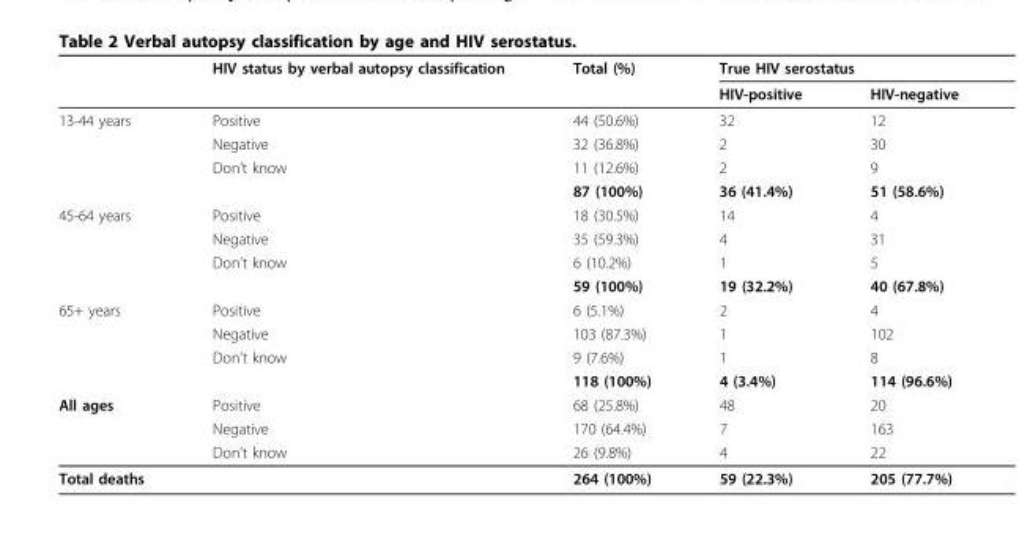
<table><thead><tr><td rowspan="2"></td><td rowspan="2">HIV status by verbal autopsy classification</td><td rowspan="2">Total (%)</td><td colspan="2">True HIV serostatus</td></tr><tr><td>HIV-positive</td><td>HIV-negative</td></tr></thead><tbody><tr><td rowspan="4">13-44 years</td><td>Positive</td><td>44 (50.6%)</td><td>32</td><td>12</td></tr><tr><td>Negative</td><td>32 (36.8%)</td><td>2</td><td>30</td></tr><tr><td>Don’t know</td><td>11 (12.6%)</td><td>2</td><td>9</td></tr><tr><td></td><td>87 (100%)</td><td>36 (41.4%)</td><td>51 (58.6%)</td></tr><tr><td rowspan="4">45-64 years</td><td>Positive</td><td>18 (30.5%)</td><td>14</td><td>4</td></tr><tr><td>Negative</td><td>35 (59.3%)</td><td>4</td><td>31</td></tr><tr><td>Don’t know</td><td>6 (10.2%)</td><td>1</td><td>5</td></tr><tr><td></td><td>59 (100%)</td><td>19 (32.2%)</td><td>40 (67.8%)</td></tr><tr><td rowspan="4">65+ years</td><td>Positive</td><td>6 (5.1%)</td><td>2</td><td>4</td></tr><tr><td>Negative</td><td>103 (87.3%)</td><td>1</td><td>102</td></tr><tr><td>Don’t know</td><td>9 (7.6%)</td><td>1</td><td>8</td></tr><tr><td></td><td>118 (100%)</td><td>4 (3.4%)</td><td>114 (96.6%)</td></tr><tr><td rowspan="3">All ages</td><td>Positive</td><td>68 (25.8%)</td><td>48</td><td>20</td></tr><tr><td>Negative</td><td>170 (64.4%)</td><td>7</td><td>163</td></tr><tr><td>Don’t know</td><td>26 (9.8%)</td><td>4</td><td>22</td></tr><tr><td>Total deaths</td><td></td><td>264 (100%)</td><td>59 (22.3%)</td><td>205 (77.7%)</td></tr></tbody></table>